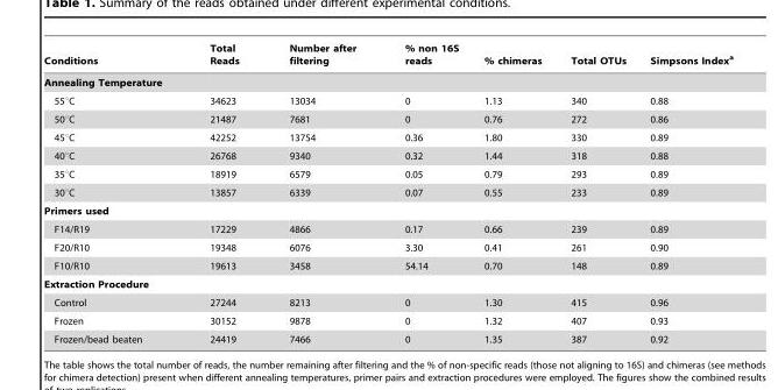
<table><thead><tr><td>Conditions</td><td>Total Reads</td><td>Number after filtering</td><td>% non 16S reads</td><td>% chimeras</td><td>Total OTUs</td><td>Simpsons Index<sup>a</sup></td></tr></thead><tbody><tr><td colspan="7">Annealing Temperature</td></tr><tr><td>55°C</td><td>34623</td><td>13034</td><td>0</td><td>1.13</td><td>340</td><td>0.88</td></tr><tr><td>50°C</td><td>21487</td><td>7681</td><td>0</td><td>0.76</td><td>272</td><td>0.86</td></tr><tr><td>45°C</td><td>42252</td><td>13754</td><td>0.36</td><td>1.80</td><td>330</td><td>0.89</td></tr><tr><td>40°C</td><td>26768</td><td>9340</td><td>0.32</td><td>1.44</td><td>318</td><td>0.88</td></tr><tr><td>35°C</td><td>18919</td><td>6579</td><td>0.05</td><td>0.79</td><td>293</td><td>0.89</td></tr><tr><td>30°C</td><td>13857</td><td>6339</td><td>0.07</td><td>0.55</td><td>233</td><td>0.89</td></tr><tr><td colspan="7">Primers used</td></tr><tr><td>F14/R19</td><td>17229</td><td>4866</td><td>0.17</td><td>0.66</td><td>239</td><td>0.89</td></tr><tr><td>F20/R10</td><td>19348</td><td>6076</td><td>3.30</td><td>0.41</td><td>261</td><td>0.90</td></tr><tr><td>F10/R10</td><td>19613</td><td>3458</td><td>54.14</td><td>0.70</td><td>148</td><td>0.89</td></tr><tr><td colspan="7">Extraction Procedure</td></tr><tr><td>Control</td><td>27244</td><td>8213</td><td>0</td><td>1.30</td><td>415</td><td>0.96</td></tr><tr><td>Frozen</td><td>30152</td><td>9878</td><td>0</td><td>1.32</td><td>407</td><td>0.93</td></tr><tr><td>Frozen/bead beaten</td><td>24419</td><td>7466</td><td>0</td><td>1.35</td><td>387</td><td>0.92</td></tr></tbody></table>